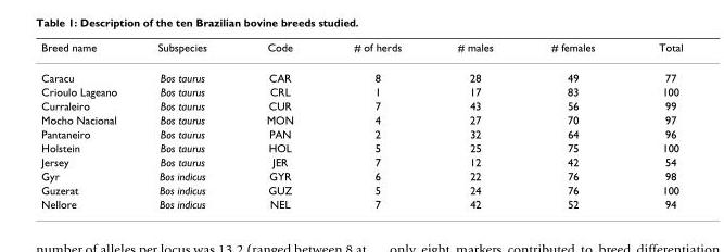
<table><thead><tr><td>Breed name</td><td>Subspecies</td><td>Code</td><td># of herds</td><td># males</td><td># females</td><td>Total</td></tr></thead><tbody><tr><td>Caracu</td><td>Bos taurus</td><td>CAR</td><td>8</td><td>28</td><td>49</td><td>77</td></tr><tr><td>Crioulo Lageano</td><td>Bos taurus</td><td>CRL</td><td>1</td><td>17</td><td>83</td><td>100</td></tr><tr><td>Curraleiro</td><td>Bos taurus</td><td>CUR</td><td>7</td><td>43</td><td>56</td><td>99</td></tr><tr><td>Mocho Nacional</td><td>Bos taurus</td><td>MON</td><td>4</td><td>27</td><td>70</td><td>97</td></tr><tr><td>Pantaneiro</td><td>Bos taurus</td><td>PAN</td><td>2</td><td>32</td><td>64</td><td>96</td></tr><tr><td>Holstein</td><td>Bos taurus</td><td>HOL</td><td>5</td><td>25</td><td>75</td><td>100</td></tr><tr><td>Jersey</td><td>Bos taurus</td><td>JER</td><td>7</td><td>12</td><td>42</td><td>54</td></tr><tr><td>Gyr</td><td>Bos indicus</td><td>GYR</td><td>6</td><td>22</td><td>76</td><td>98</td></tr><tr><td>Guzerat</td><td>Bos indicus</td><td>GUZ</td><td>5</td><td>24</td><td>76</td><td>100</td></tr><tr><td>Nellore</td><td>Bos indicus</td><td>NEL</td><td>7</td><td>42</td><td>52</td><td>94</td></tr></tbody></table>